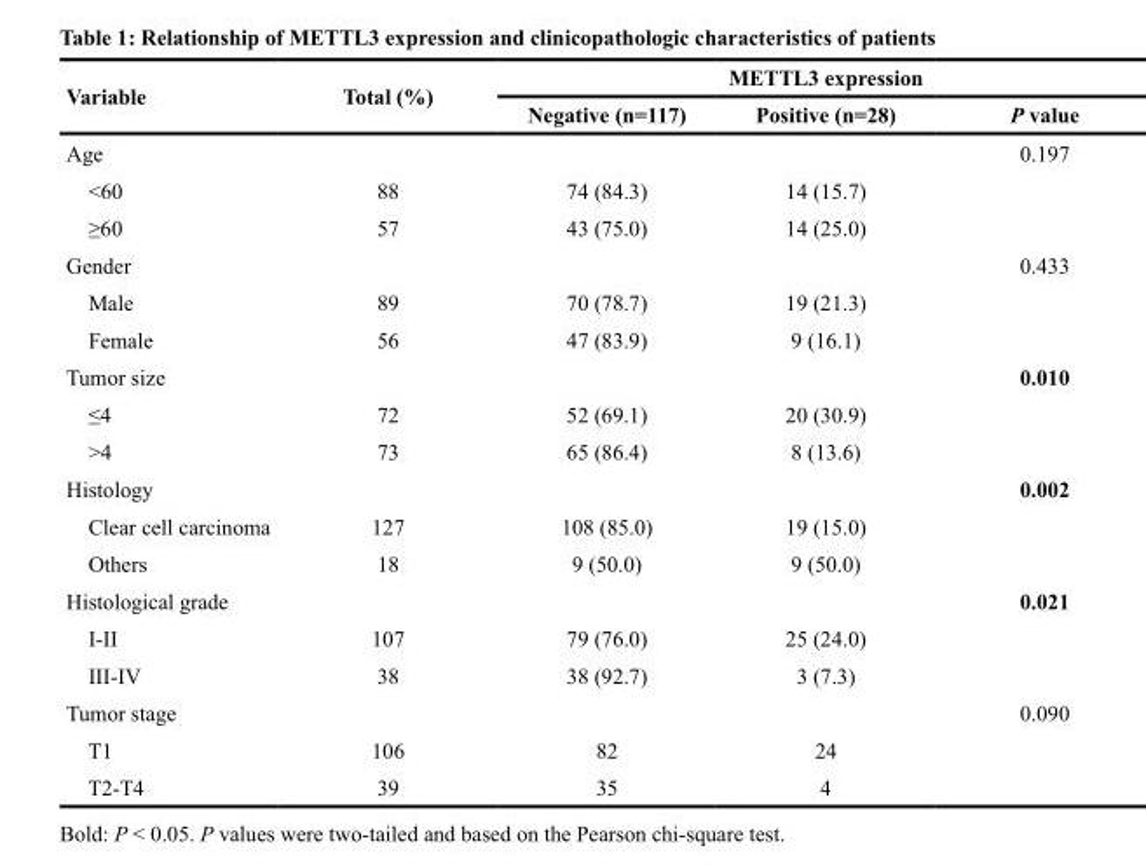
<table><thead><tr><td rowspan="2">Variable</td><td rowspan="2">Total (%)</td><td colspan="3">METTL3 expression</td></tr><tr><td>Negative (n=117)</td><td>Positive (n=28)</td><td>P value</td></tr></thead><tbody><tr><td>Age</td><td></td><td></td><td></td><td>0.197</td></tr><tr><td>&lt;60</td><td>88</td><td>74 (84.3)</td><td>14 (15.7)</td><td></td></tr><tr><td>≥60</td><td>57</td><td>43 (75.0)</td><td>14 (25.0)</td><td></td></tr><tr><td>Gender</td><td></td><td></td><td></td><td>0.433</td></tr><tr><td>Male</td><td>89</td><td>70 (78.7)</td><td>19 (21.3)</td><td></td></tr><tr><td>Female</td><td>56</td><td>47 (83.9)</td><td>9 (16.1)</td><td></td></tr><tr><td>Tumor size</td><td></td><td></td><td></td><td>0.010</td></tr><tr><td>≤4</td><td>72</td><td>52 (69.1)</td><td>20 (30.9)</td><td></td></tr><tr><td>&gt;4</td><td>73</td><td>65 (86.4)</td><td>8 (13.6)</td><td></td></tr><tr><td>Histology</td><td></td><td></td><td></td><td>0.002</td></tr><tr><td>Clear cell carcinoma</td><td>127</td><td>108 (85.0)</td><td>19 (15.0)</td><td></td></tr><tr><td>Others</td><td>18</td><td>9 (50.0)</td><td>9 (50.0)</td><td></td></tr><tr><td>Histological grade</td><td></td><td></td><td></td><td>0.021</td></tr><tr><td>I-II</td><td>107</td><td>79 (76.0)</td><td>25 (24.0)</td><td></td></tr><tr><td>III-IV</td><td>38</td><td>38 (92.7)</td><td>3 (7.3)</td><td></td></tr><tr><td>Tumor stage</td><td></td><td></td><td></td><td>0.090</td></tr><tr><td>T1</td><td>106</td><td>82</td><td>24</td><td></td></tr><tr><td>T2-T4</td><td>39</td><td>35</td><td>4</td><td></td></tr></tbody></table>